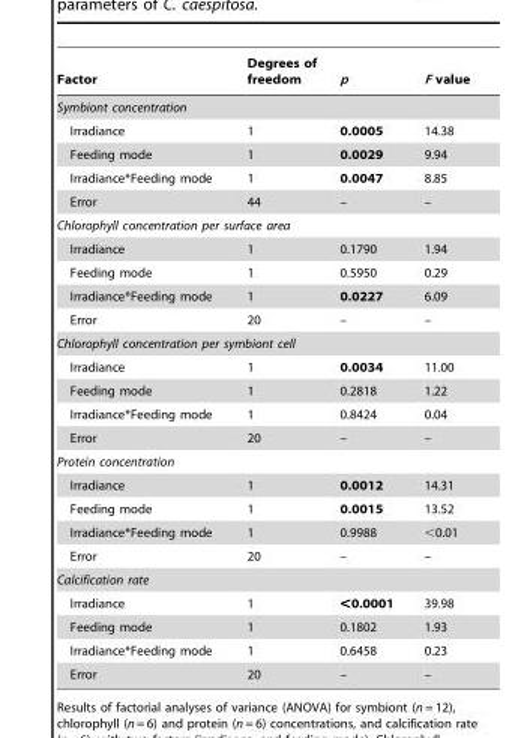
<table><thead><tr><td>Factor</td><td>Degrees of freedom</td><td>p</td><td>F value</td></tr></thead><tbody><tr><td colspan="4">Symbiont concentration</td></tr><tr><td>Irradiance</td><td>1</td><td>0.0005</td><td>14.38</td></tr><tr><td>Feeding mode</td><td>1</td><td>0.0029</td><td>9.94</td></tr><tr><td>Irradiance*Feeding mode</td><td>1</td><td>0.0047</td><td>8.85</td></tr><tr><td>Error</td><td>44</td><td>–</td><td>–</td></tr><tr><td colspan="4">Chlorophyll concentration per surface area</td></tr><tr><td>Irradiance</td><td>1</td><td>0.1790</td><td>1.94</td></tr><tr><td>Feeding mode</td><td>1</td><td>0.5950</td><td>0.29</td></tr><tr><td>Irradiance*Feeding mode</td><td>1</td><td>0.0227</td><td>6.09</td></tr><tr><td>Error</td><td>20</td><td>–</td><td>–</td></tr><tr><td colspan="4">Chlorophyll concentration per symbiont cell</td></tr><tr><td>Irradiance</td><td>1</td><td>0.0034</td><td>11.00</td></tr><tr><td>Feeding mode</td><td>1</td><td>0.2818</td><td>1.22</td></tr><tr><td>Irradiance*Feeding mode</td><td>1</td><td>0.8424</td><td>0.04</td></tr><tr><td>Error</td><td>20</td><td>–</td><td>–</td></tr><tr><td colspan="4">Protein concentration</td></tr><tr><td>Irradiance</td><td>1</td><td>0.0012</td><td>14.31</td></tr><tr><td>Feeding mode</td><td>1</td><td>0.0015</td><td>13.52</td></tr><tr><td>Irradiance*Feeding mode</td><td>1</td><td>0.9988</td><td>&lt;0.01</td></tr><tr><td>Error</td><td>20</td><td>–</td><td>–</td></tr><tr><td colspan="4">Calcification rate</td></tr><tr><td>Irradiance</td><td>1</td><td>&lt;0.0001</td><td>39.98</td></tr><tr><td>Feeding mode</td><td>1</td><td>0.1802</td><td>1.93</td></tr><tr><td>Irradiance*Feeding mode</td><td>1</td><td>0.6458</td><td>0.23</td></tr><tr><td>Error</td><td>20</td><td>–</td><td>–</td></tr></tbody></table>